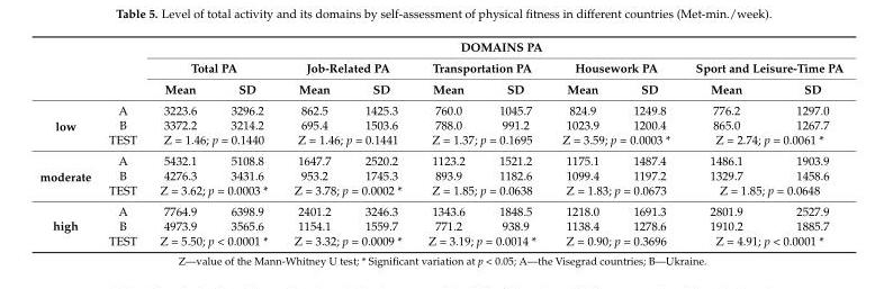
<table><thead><tr><td rowspan="3"></td><td rowspan="3"></td><td colspan="10">DOMAINS PA</td></tr><tr><td colspan="2">Total PA</td><td colspan="2">Job-Related PA</td><td colspan="2">Transportation PA</td><td colspan="2">Housework PA</td><td colspan="2">Sport and Leisure-Time PA</td></tr><tr><td>Mean</td><td>SD</td><td>Mean</td><td>SD</td><td>Mean</td><td>SD</td><td>Mean</td><td>SD</td><td>Mean</td><td>SD</td></tr></thead><tbody><tr><td rowspan="3">low</td><td>A</td><td>3223.6</td><td>3296.2</td><td>862.5</td><td>1425.3</td><td>760.0</td><td>1045.7</td><td>824.9</td><td>1249.8</td><td>776.2</td><td>1297.0</td></tr><tr><td>B</td><td>3372.2</td><td>3214.2</td><td>695.4</td><td>1503.6</td><td>788.0</td><td>991.2</td><td>1023.9</td><td>1200.4</td><td>865.0</td><td>1267.7</td></tr><tr><td>TEST</td><td colspan="2">Z = 1.46; p = 0.1440</td><td colspan="2">Z = 1.46; p = 0.1441</td><td colspan="2">Z = 1.37; p = 0.1695</td><td colspan="2">Z = 3.59; p = 0.0003 *</td><td colspan="2">Z = 2.74; p = 0.0061 *</td></tr><tr><td rowspan="3">moderate</td><td>A</td><td>5432.1</td><td>5108.8</td><td>1647.7</td><td>2520.2</td><td>1123.2</td><td>1521.2</td><td>1175.1</td><td>1487.4</td><td>1486.1</td><td>1903.9</td></tr><tr><td>B</td><td>4276.3</td><td>3431.6</td><td>953.2</td><td>1745.3</td><td>893.9</td><td>1182.6</td><td>1099.4</td><td>1197.2</td><td>1329.7</td><td>1458.6</td></tr><tr><td>TEST</td><td colspan="2">Z = 3.62; p = 0.0003 *</td><td colspan="2">Z = 3.78; p = 0.0002 *</td><td colspan="2">Z = 1.85; p = 0.0638</td><td colspan="2">Z = 1.83; p = 0.0673</td><td colspan="2">Z = 1.85; p = 0.0648</td></tr><tr><td rowspan="3">high</td><td>A</td><td>7764.9</td><td>6398.9</td><td>2401.2</td><td>3246.3</td><td>1343.6</td><td>1848.5</td><td>1218.0</td><td>1691.3</td><td>2801.9</td><td>2527.9</td></tr><tr><td>B</td><td>4973.9</td><td>3565.6</td><td>1154.1</td><td>1559.7</td><td>771.2</td><td>938.9</td><td>1138.4</td><td>1278.6</td><td>1910.2</td><td>1885.7</td></tr><tr><td>TEST</td><td colspan="2">Z = 5.50; p &lt; 0.0001 *</td><td colspan="2">Z = 3.32; p = 0.0009 *</td><td colspan="2">Z = 3.19; p = 0.0014 *</td><td colspan="2">Z = 0.90; p = 0.3696</td><td colspan="2">Z = 4.91; p &lt; 0.0001 *</td></tr></tbody></table>